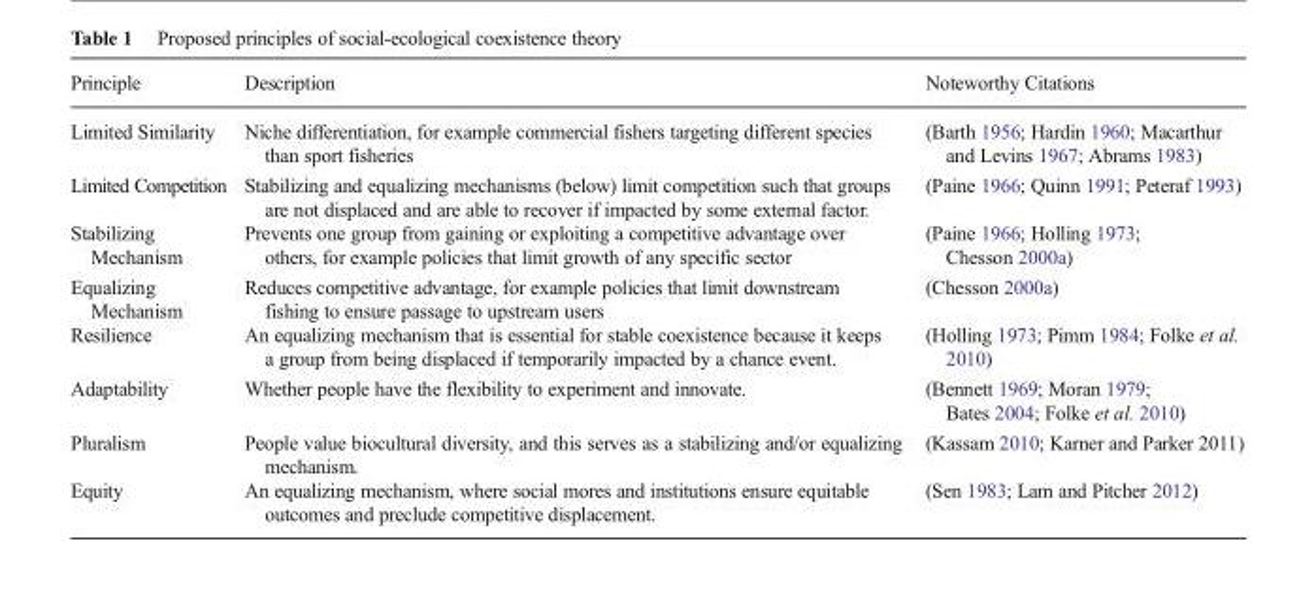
<table><thead><tr><td>Principle</td><td>Description</td><td>Noteworthy Citations</td></tr></thead><tbody><tr><td>Limited Similarity</td><td>Niche differentiation, for example commercial fishers targeting different species than sport fisheries</td><td>(Barth 1956; Hardin 1960; Macarthur and Levins 1967; Abrams 1983)</td></tr><tr><td>Limited Competition</td><td>Stabilizing and equalizing mechanisms (below) limit competition such that groups are not displaced and are able to recover if impacted by some external factor.</td><td>(Paine 1966; Quinn 1991; Peteraf 1993)</td></tr><tr><td>Stabilizing Mechanism</td><td>Prevents one group from gaining or exploiting a competitive advantage over others, for example policies that limit growth of any specific sector</td><td>(Paine 1966; Holling 1973; Chesson 2000a)</td></tr><tr><td>Equalizing Mechanism</td><td>Reduces competitive advantage, for example policies that limit downstream fishing to ensure passage to upstream users</td><td>(Chesson 2000a)</td></tr><tr><td>Resilience</td><td>An equalizing mechanism that is essential for stable coexistence because it keeps a group from being displaced if temporarily impacted by a chance event.</td><td>(Holling 1973; Pimm 1984; Folke et al. 2010)</td></tr><tr><td>Adaptability</td><td>Whether people have the flexibility to experiment and innovate.</td><td>(Bennett 1969; Moran 1979; Bates 2004; Folke et al. 2010)</td></tr><tr><td>Pluralism</td><td>People value biocultural diversity, and this serves as a stabilizing and/or equalizing mechanism.</td><td>(Kassam 2010; Karner and Parker 2011)</td></tr><tr><td>Equity</td><td>An equalizing mechanism, where social mores and institutions ensure equitable outcomes and preclude competitive displacement.</td><td>(Sen 1983; Lam and Pitcher 2012)</td></tr></tbody></table>